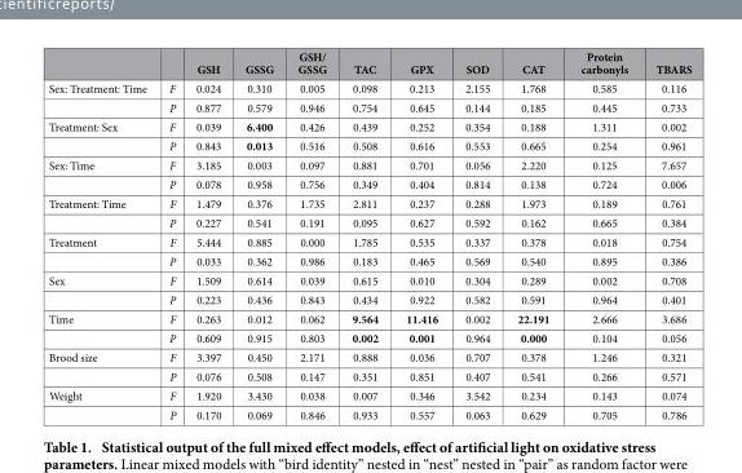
<table><thead><tr><td></td><td></td><td>GSH</td><td>GSSG</td><td>GSH/ GSSG</td><td>TAC</td><td>GPX</td><td>SOD</td><td>CAT</td><td>Protein carbonyls</td><td>TBARS</td></tr></thead><tbody><tr><td rowspan="2">Sex: Treatment: Time</td><td>F</td><td>0.024</td><td>0.310</td><td>0.005</td><td>0.098</td><td>0.213</td><td>2.155</td><td>1.768</td><td>0.585</td><td>0.116</td></tr><tr><td>P</td><td>0.877</td><td>0.579</td><td>0.946</td><td>0.754</td><td>0.645</td><td>0.144</td><td>0.185</td><td>0.445</td><td>0.733</td></tr><tr><td rowspan="2">Treatment: Sex</td><td>F</td><td>0.039</td><td>6.400</td><td>0.426</td><td>0.439</td><td>0.252</td><td>0.354</td><td>0.188</td><td>1.311</td><td>0.002</td></tr><tr><td>P</td><td>0.843</td><td>0.013</td><td>0.516</td><td>0.508</td><td>0.616</td><td>0.553</td><td>0.665</td><td>0.254</td><td>0.961</td></tr><tr><td rowspan="2">Sex: Time</td><td>F</td><td>3.185</td><td>0.003</td><td>0.097</td><td>0.881</td><td>0.701</td><td>0.056</td><td>2.220</td><td>0.125</td><td>7.657</td></tr><tr><td>P</td><td>0.078</td><td>0.958</td><td>0.756</td><td>0.349</td><td>0.404</td><td>0.814</td><td>0.138</td><td>0.724</td><td>0.006</td></tr><tr><td rowspan="2">Treatment: Time</td><td>F</td><td>1.479</td><td>0.376</td><td>1.735</td><td>2.811</td><td>0.237</td><td>0.288</td><td>1.973</td><td>0.189</td><td>0.761</td></tr><tr><td>P</td><td>0.227</td><td>0.541</td><td>0.191</td><td>0.095</td><td>0.627</td><td>0.592</td><td>0.162</td><td>0.665</td><td>0.384</td></tr><tr><td rowspan="2">Treatment</td><td>F</td><td>5.444</td><td>0.885</td><td>0.000</td><td>1.785</td><td>0.535</td><td>0.337</td><td>0.378</td><td>0.018</td><td>0.754</td></tr><tr><td>P</td><td>0.033</td><td>0.362</td><td>0.986</td><td>0.183</td><td>0.465</td><td>0.569</td><td>0.540</td><td>0.895</td><td>0.386</td></tr><tr><td rowspan="2">Sex</td><td>F</td><td>1.509</td><td>0.614</td><td>0.039</td><td>0.615</td><td>0.010</td><td>0.304</td><td>0.289</td><td>0.002</td><td>0.708</td></tr><tr><td>P</td><td>0.223</td><td>0.436</td><td>0.843</td><td>0.434</td><td>0.922</td><td>0.582</td><td>0.591</td><td>0.964</td><td>0.401</td></tr><tr><td rowspan="2">Time</td><td>F</td><td>0.263</td><td>0.012</td><td>0.062</td><td>9.564</td><td>11.416</td><td>0.002</td><td>22.191</td><td>2.666</td><td>3.686</td></tr><tr><td>P</td><td>0.609</td><td>0.915</td><td>0.803</td><td>0.002</td><td>0.001</td><td>0.964</td><td>0.000</td><td>0.104</td><td>0.056</td></tr><tr><td rowspan="2">Brood size</td><td>F</td><td>3.397</td><td>0.450</td><td>2.171</td><td>0.888</td><td>0.036</td><td>0.707</td><td>0.378</td><td>1.246</td><td>0.321</td></tr><tr><td>P</td><td>0.076</td><td>0.508</td><td>0.147</td><td>0.351</td><td>0.851</td><td>0.407</td><td>0.541</td><td>0.266</td><td>0.571</td></tr><tr><td rowspan="2">Weight</td><td>F</td><td>1.920</td><td>3.430</td><td>0.038</td><td>0.007</td><td>0.346</td><td>3.542</td><td>0.234</td><td>0.143</td><td>0.074</td></tr><tr><td>P</td><td>0.170</td><td>0.069</td><td>0.846</td><td>0.933</td><td>0.557</td><td>0.063</td><td>0.629</td><td>0.705</td><td>0.786</td></tr></tbody></table>